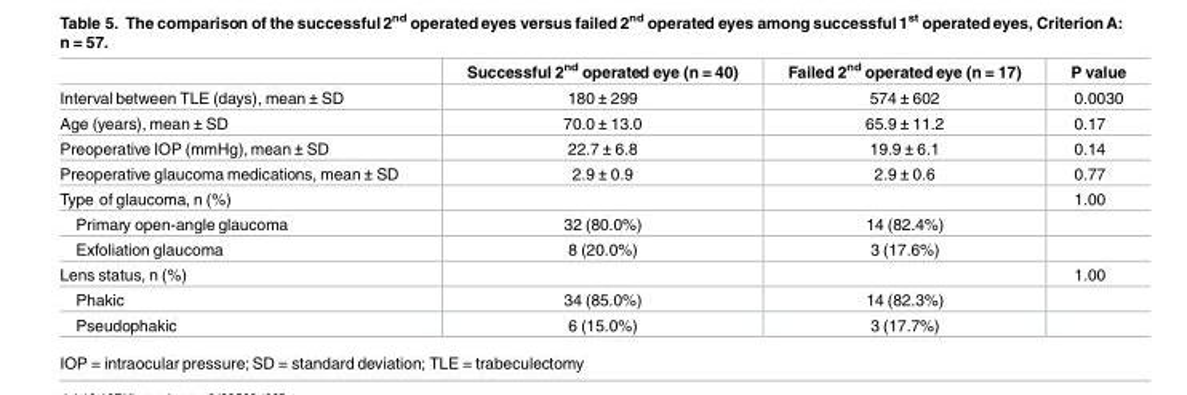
<table><thead><tr><td></td><td>Successful 2<sup>nd</sup> operated eye (n = 40)</td><td>Failed 2<sup>nd</sup> operated eye (n = 17)</td><td>P value</td></tr></thead><tbody><tr><td>Interval between TLE (days), mean ± SD</td><td>180 ± 299</td><td>574 ± 602</td><td>0.0030</td></tr><tr><td>Age (years), mean ± SD</td><td>70.0 ± 13.0</td><td>65.9 ± 11.2</td><td>0.17</td></tr><tr><td>Preoperative IOP (mmHg), mean ± SD</td><td>22.7 ± 6.8</td><td>19.9 ± 6.1</td><td>0.14</td></tr><tr><td>Preoperative glaucoma medications, mean ± SD</td><td>2.9 ± 0.9</td><td>2.9 ± 0.6</td><td>0.77</td></tr><tr><td>Type of glaucoma, n (%)</td><td></td><td></td><td>1.00</td></tr><tr><td>Primary open-angle glaucoma</td><td>32 (80.0%)</td><td>14 (82.4%)</td><td></td></tr><tr><td>Exfoliation glaucoma</td><td>8 (20.0%)</td><td>3 (17.6%)</td><td></td></tr><tr><td>Lens status, n (%)</td><td></td><td></td><td>1.00</td></tr><tr><td>Phakic</td><td>34 (85.0%)</td><td>14 (82.3%)</td><td></td></tr><tr><td>Pseudophakic</td><td>6 (15.0%)</td><td>3 (17.7%)</td><td></td></tr></tbody></table>